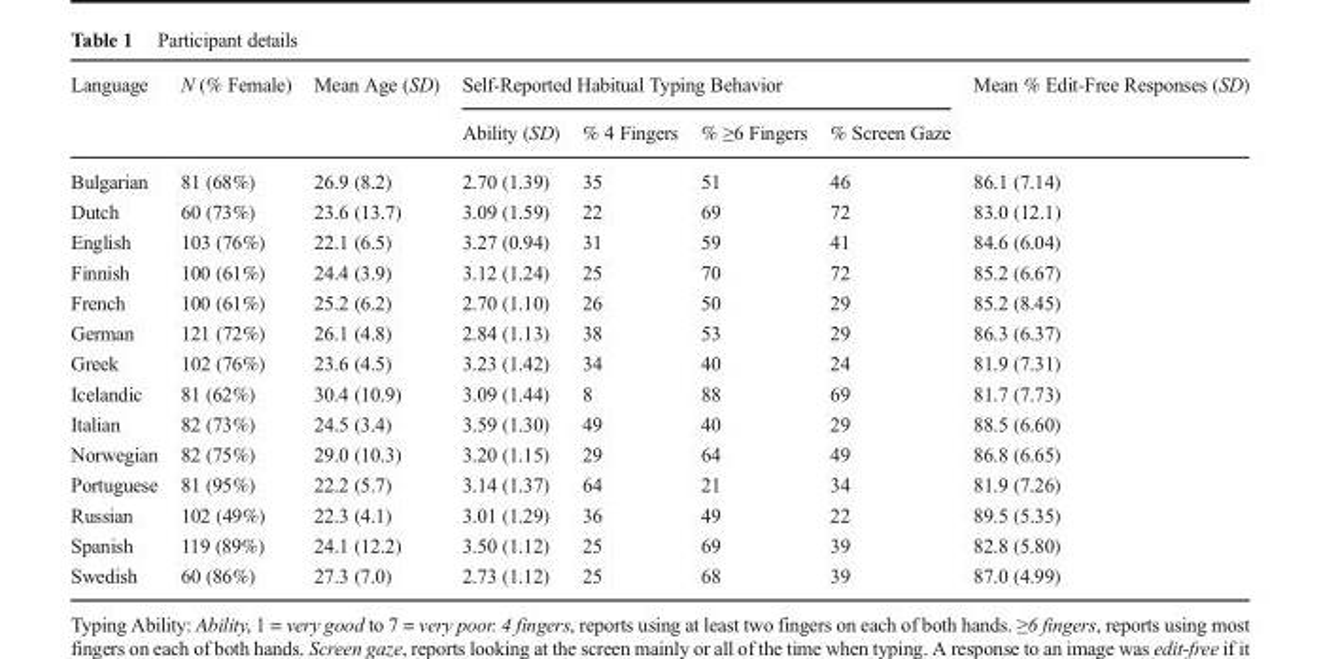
<table><thead><tr><td rowspan="2">Language</td><td rowspan="2">N (% Female)</td><td rowspan="2">Mean Age (SD)</td><td colspan="4">Self-Reported Habitual Typing Behavior</td><td rowspan="2">Mean % Edit-Free Responses (SD)</td></tr><tr><td>Ability (SD)</td><td>% 4 Fingers</td><td>% ≥6 Fingers</td><td>% Screen Gaze</td></tr></thead><tbody><tr><td>Bulgarian</td><td>81 (68%)</td><td>26.9 (8.2)</td><td>2.70 (1.39)</td><td>35</td><td>51</td><td>46</td><td>86.1 (7.14)</td></tr><tr><td>Dutch</td><td>60 (73%)</td><td>23.6 (13.7)</td><td>3.09 (1.59)</td><td>22</td><td>69</td><td>72</td><td>83.0 (12.1)</td></tr><tr><td>English</td><td>103 (76%)</td><td>22.1 (6.5)</td><td>3.27 (0.94)</td><td>31</td><td>59</td><td>41</td><td>84.6 (6.04)</td></tr><tr><td>Finnish</td><td>100 (61%)</td><td>24.4 (3.9)</td><td>3.12 (1.24)</td><td>25</td><td>70</td><td>72</td><td>85.2 (6.67)</td></tr><tr><td>French</td><td>100 (61%)</td><td>25.2 (6.2)</td><td>2.70 (1.10)</td><td>26</td><td>50</td><td>29</td><td>85.2 (8.45)</td></tr><tr><td>German</td><td>121 (72%)</td><td>26.1 (4.8)</td><td>2.84 (1.13)</td><td>38</td><td>53</td><td>29</td><td>86.3 (6.37)</td></tr><tr><td>Greek</td><td>102 (76%)</td><td>23.6 (4.5)</td><td>3.23 (1.42)</td><td>34</td><td>40</td><td>24</td><td>81.9 (7.31)</td></tr><tr><td>Icelandic</td><td>81 (62%)</td><td>30.4 (10.9)</td><td>3.09 (1.44)</td><td>8</td><td>88</td><td>69</td><td>81.7 (7.73)</td></tr><tr><td>Italian</td><td>82 (73%)</td><td>24.5 (3.4)</td><td>3.59 (1.30)</td><td>49</td><td>40</td><td>29</td><td>88.5 (6.60)</td></tr><tr><td>Norwegian</td><td>82 (75%)</td><td>29.0 (10.3)</td><td>3.20 (1.15)</td><td>29</td><td>64</td><td>49</td><td>86.8 (6.65)</td></tr><tr><td>Portuguese</td><td>81 (95%)</td><td>22.2 (5.7)</td><td>3.14 (1.37)</td><td>64</td><td>21</td><td>34</td><td>81.9 (7.26)</td></tr><tr><td>Russian</td><td>102 (49%)</td><td>22.3 (4.1)</td><td>3.01 (1.29)</td><td>36</td><td>49</td><td>22</td><td>89.5 (5.35)</td></tr><tr><td>Spanish</td><td>119 (89%)</td><td>24.1 (12.2)</td><td>3.50 (1.12)</td><td>25</td><td>69</td><td>39</td><td>82.8 (5.80)</td></tr><tr><td>Swedish</td><td>60 (86%)</td><td>27.3 (7.0)</td><td>2.73 (1.12)</td><td>25</td><td>68</td><td>39</td><td>87.0 (4.99)</td></tr></tbody></table>